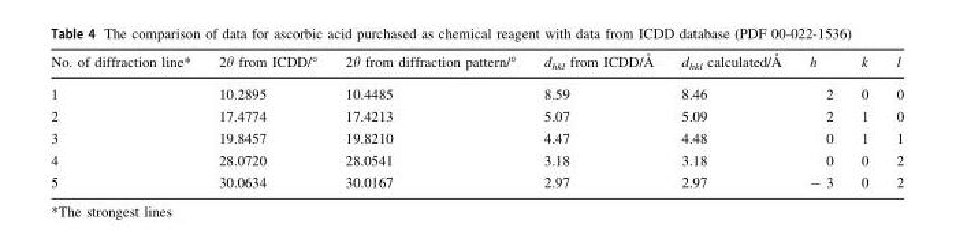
<table><thead><tr><td>No. of diffraction line*</td><td>2θ from ICDD/°</td><td>2θ from diffraction pattern/°</td><td>dhkl from ICDD/A˚</td><td>dhkl calculated/A˚</td><td>h</td><td>k</td><td>l</td></tr></thead><tbody><tr><td>1</td><td>10.2895</td><td>10.4485</td><td>8.59</td><td>8.46</td><td>2</td><td>0</td><td>0</td></tr><tr><td>2</td><td>17.4774</td><td>17.4213</td><td>5.07</td><td>5.09</td><td>2</td><td>1</td><td>0</td></tr><tr><td>3</td><td>19.8457</td><td>19.8210</td><td>4.47</td><td>4.48</td><td>0</td><td>1</td><td>1</td></tr><tr><td>4</td><td>28.0720</td><td>28.0541</td><td>3.18</td><td>3.18</td><td>0</td><td>0</td><td>2</td></tr><tr><td>5</td><td>30.0634</td><td>30.0167</td><td>2.97</td><td>2.97</td><td>- 3</td><td>0</td><td>2</td></tr></tbody></table>